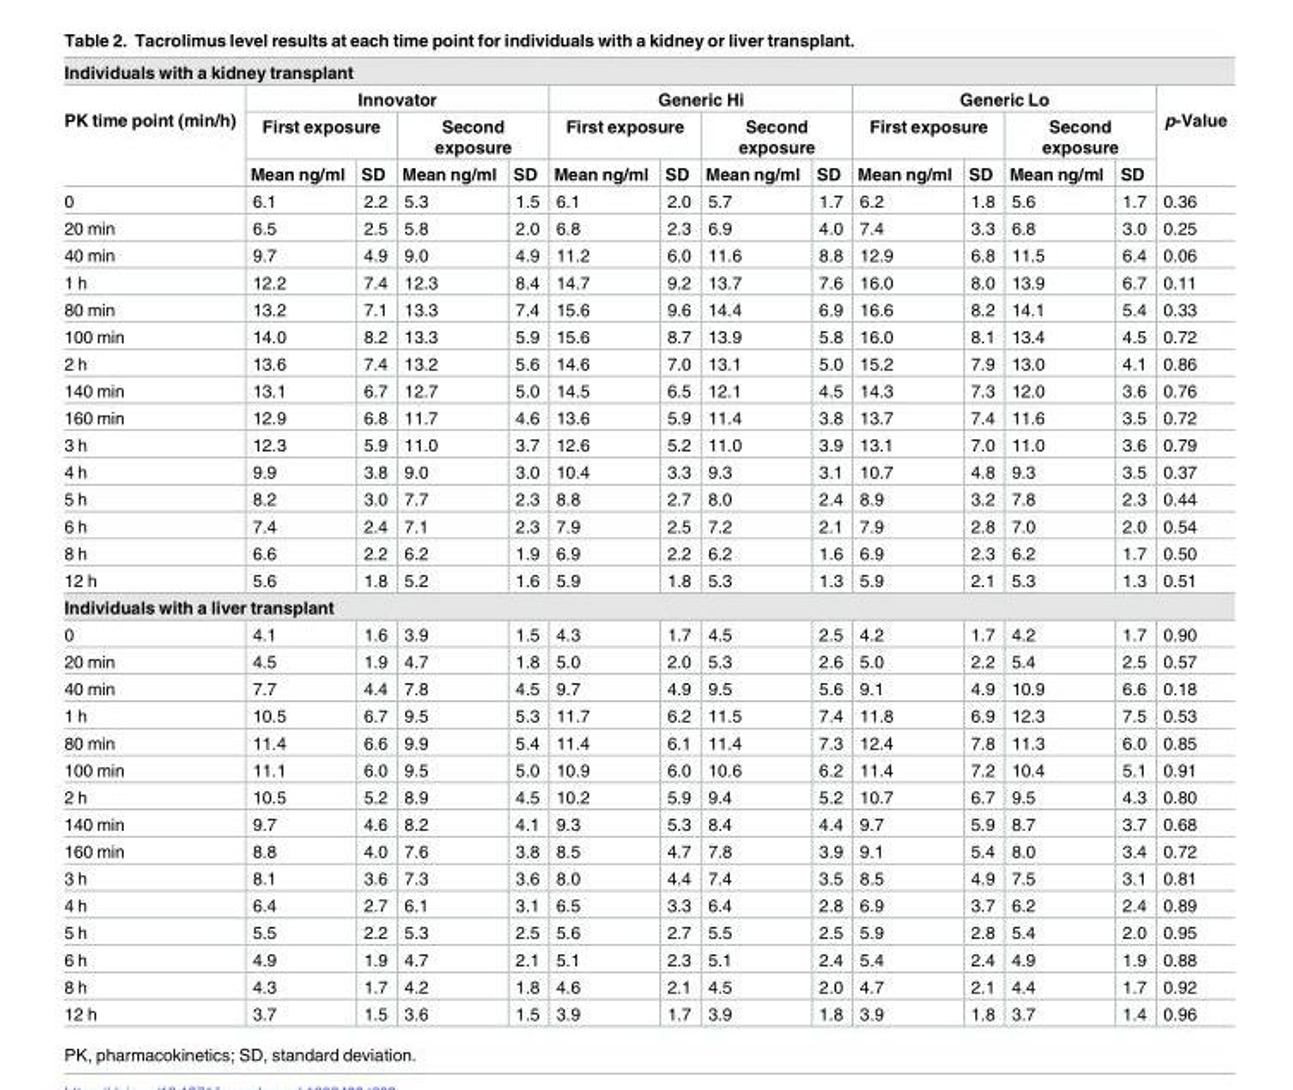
<table><thead><tr><td colspan="14">Individuals with a kidney transplant</td></tr><tr><td rowspan="3">PK time point (min/h)</td><td colspan="4">Innovator</td><td colspan="4">Generic Hi</td><td colspan="4">Generic Lo</td><td rowspan="3">p-Value</td></tr><tr><td colspan="2">First exposure</td><td colspan="2">Second exposure</td><td colspan="2">First exposure</td><td colspan="2">Second exposure</td><td colspan="2">First exposure</td><td colspan="2">Second exposure</td></tr><tr><td>Mean ng/ml</td><td>SD</td><td>Mean ng/ml</td><td>SD</td><td>Mean ng/ml</td><td>SD</td><td>Mean ng/ml</td><td>SD</td><td>Mean ng/ml</td><td>SD</td><td>Mean ng/ml</td><td>SD</td></tr></thead><tbody><tr><td>0</td><td>6.1</td><td>2.2</td><td>5.3</td><td>1.5</td><td>6.1</td><td>2.0</td><td>5.7</td><td>1.7</td><td>6.2</td><td>1.8</td><td>5.6</td><td>1.7</td><td>0.36</td></tr><tr><td>20 min</td><td>6.5</td><td>2.5</td><td>5.8</td><td>2.0</td><td>6.8</td><td>2.3</td><td>6.9</td><td>4.0</td><td>7.4</td><td>3.3</td><td>6.8</td><td>3.0</td><td>0.25</td></tr><tr><td>40 min</td><td>9.7</td><td>4.9</td><td>9.0</td><td>4.9</td><td>11.2</td><td>6.0</td><td>11.6</td><td>8.8</td><td>12.9</td><td>6.8</td><td>11.5</td><td>6.4</td><td>0.06</td></tr><tr><td>1 h</td><td>12.2</td><td>7.4</td><td>12.3</td><td>8.4</td><td>14.7</td><td>9.2</td><td>13.7</td><td>7.6</td><td>16.0</td><td>8.0</td><td>13.9</td><td>6.7</td><td>0.11</td></tr><tr><td>80 min</td><td>13.2</td><td>7.1</td><td>13.3</td><td>7.4</td><td>15.6</td><td>9.6</td><td>14.4</td><td>6.9</td><td>16.6</td><td>8.2</td><td>14.1</td><td>5.4</td><td>0.33</td></tr><tr><td>100 min</td><td>14.0</td><td>8.2</td><td>13.3</td><td>5.9</td><td>15.6</td><td>8.7</td><td>13.9</td><td>5.8</td><td>16.0</td><td>8.1</td><td>13.4</td><td>4.5</td><td>0.72</td></tr><tr><td>2 h</td><td>13.6</td><td>7.4</td><td>13.2</td><td>5.6</td><td>14.6</td><td>7.0</td><td>13.1</td><td>5.0</td><td>15.2</td><td>7.9</td><td>13.0</td><td>4.1</td><td>0.86</td></tr><tr><td>140 min</td><td>13.1</td><td>6.7</td><td>12.7</td><td>5.0</td><td>14.5</td><td>6.5</td><td>12.1</td><td>4.5</td><td>14.3</td><td>7.3</td><td>12.0</td><td>3.6</td><td>0.76</td></tr><tr><td>160 min</td><td>12.9</td><td>6.8</td><td>11.7</td><td>4.6</td><td>13.6</td><td>5.9</td><td>11.4</td><td>3.8</td><td>13.7</td><td>7.4</td><td>11.6</td><td>3.5</td><td>0.72</td></tr><tr><td>3 h</td><td>12.3</td><td>5.9</td><td>11.0</td><td>3.7</td><td>12.6</td><td>5.2</td><td>11.0</td><td>3.9</td><td>13.1</td><td>7.0</td><td>11.0</td><td>3.6</td><td>0.79</td></tr><tr><td>4 h</td><td>9.9</td><td>3.8</td><td>9.0</td><td>3.0</td><td>10.4</td><td>3.3</td><td>9.3</td><td>3.1</td><td>10.7</td><td>4.8</td><td>9.3</td><td>3.5</td><td>0.37</td></tr><tr><td>5 h</td><td>8.2</td><td>3.0</td><td>7.7</td><td>2.3</td><td>8.8</td><td>2.7</td><td>8.0</td><td>2.4</td><td>8.9</td><td>3.2</td><td>7.8</td><td>2.3</td><td>0.44</td></tr><tr><td>6 h</td><td>7.4</td><td>2.4</td><td>7.1</td><td>2.3</td><td>7.9</td><td>2.5</td><td>7.2</td><td>2.1</td><td>7.9</td><td>2.8</td><td>7.0</td><td>2.0</td><td>0.54</td></tr><tr><td>8 h</td><td>6.6</td><td>2.2</td><td>6.2</td><td>1.9</td><td>6.9</td><td>2.2</td><td>6.2</td><td>1.6</td><td>6.9</td><td>2.3</td><td>6.2</td><td>1.7</td><td>0.50</td></tr><tr><td>12 h</td><td>5.6</td><td>1.8</td><td>5.2</td><td>1.6</td><td>5.9</td><td>1.8</td><td>5.3</td><td>1.3</td><td>5.9</td><td>2.1</td><td>5.3</td><td>1.3</td><td>0.51</td></tr><tr><td colspan="14">Individuals with a liver transplant</td></tr><tr><td>0</td><td>4.1</td><td>1.6</td><td>3.9</td><td>1.5</td><td>4.3</td><td>1.7</td><td>4.5</td><td>2.5</td><td>4.2</td><td>1.7</td><td>4.2</td><td>1.7</td><td>0.90</td></tr><tr><td>20 min</td><td>4.5</td><td>1.9</td><td>4.7</td><td>1.8</td><td>5.0</td><td>2.0</td><td>5.3</td><td>2.6</td><td>5.0</td><td>2.2</td><td>5.4</td><td>2.5</td><td>0.57</td></tr><tr><td>40 min</td><td>7.7</td><td>4.4</td><td>7.8</td><td>4.5</td><td>9.7</td><td>4.9</td><td>9.5</td><td>5.6</td><td>9.1</td><td>4.9</td><td>10.9</td><td>6.6</td><td>0.18</td></tr><tr><td>1 h</td><td>10.5</td><td>6.7</td><td>9.5</td><td>5.3</td><td>11.7</td><td>6.2</td><td>11.5</td><td>7.4</td><td>11.8</td><td>6.9</td><td>12.3</td><td>7.5</td><td>0.53</td></tr><tr><td>80 min</td><td>11.4</td><td>6.6</td><td>9.9</td><td>5.4</td><td>11.4</td><td>6.1</td><td>11.4</td><td>7.3</td><td>12.4</td><td>7.8</td><td>11.3</td><td>6.0</td><td>0.85</td></tr><tr><td>100 min</td><td>11.1</td><td>6.0</td><td>9.5</td><td>5.0</td><td>10.9</td><td>6.0</td><td>10.6</td><td>6.2</td><td>11.4</td><td>7.2</td><td>10.4</td><td>5.1</td><td>0.91</td></tr><tr><td>2 h</td><td>10.5</td><td>5.2</td><td>8.9</td><td>4.5</td><td>10.2</td><td>5.9</td><td>9.4</td><td>5.2</td><td>10.7</td><td>6.7</td><td>9.5</td><td>4.3</td><td>0.80</td></tr><tr><td>140 min</td><td>9.7</td><td>4.6</td><td>8.2</td><td>4.1</td><td>9.3</td><td>5.3</td><td>8.4</td><td>4.4</td><td>9.7</td><td>5.9</td><td>8.7</td><td>3.7</td><td>0.68</td></tr><tr><td>160 min</td><td>8.8</td><td>4.0</td><td>7.6</td><td>3.8</td><td>8.5</td><td>4.7</td><td>7.8</td><td>3.9</td><td>9.1</td><td>5.4</td><td>8.0</td><td>3.4</td><td>0.72</td></tr><tr><td>3 h</td><td>8.1</td><td>3.6</td><td>7.3</td><td>3.6</td><td>8.0</td><td>4.4</td><td>7.4</td><td>3.5</td><td>8.5</td><td>4.9</td><td>7.5</td><td>3.1</td><td>0.81</td></tr><tr><td>4 h</td><td>6.4</td><td>2.7</td><td>6.1</td><td>3.1</td><td>6.5</td><td>3.3</td><td>6.4</td><td>2.8</td><td>6.9</td><td>3.7</td><td>6.2</td><td>2.4</td><td>0.89</td></tr><tr><td>5 h</td><td>5.5</td><td>2.2</td><td>5.3</td><td>2.5</td><td>5.6</td><td>2.7</td><td>5.5</td><td>2.5</td><td>5.9</td><td>2.8</td><td>5.4</td><td>2.0</td><td>0.95</td></tr><tr><td>6 h</td><td>4.9</td><td>1.9</td><td>4.7</td><td>2.1</td><td>5.1</td><td>2.3</td><td>5.1</td><td>2.4</td><td>5.4</td><td>2.4</td><td>4.9</td><td>1.9</td><td>0.88</td></tr><tr><td>8 h</td><td>4.3</td><td>1.7</td><td>4.2</td><td>1.8</td><td>4.6</td><td>2.1</td><td>4.5</td><td>2.0</td><td>4.7</td><td>2.1</td><td>4.4</td><td>1.7</td><td>0.92</td></tr><tr><td>12 h</td><td>3.7</td><td>1.5</td><td>3.6</td><td>1.5</td><td>3.9</td><td>1.7</td><td>3.9</td><td>1.8</td><td>3.9</td><td>1.8</td><td>3.7</td><td>1.4</td><td>0.96</td></tr></tbody></table>